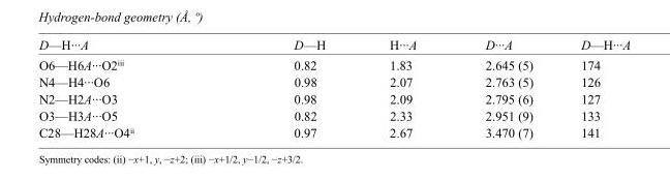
<table><tbody><tr><td>D—H···A</td><td>D—H</td><td>H···A</td><td>D···A</td><td>D—H···A</td></tr><tr><td>O6—H6A···O2<sup>iii</sup></td><td>0.82</td><td>1.83</td><td>2.645 (5)</td><td>174</td></tr><tr><td>N4—H4···O6</td><td>0.98</td><td>2.07</td><td>2.763 (5)</td><td>126</td></tr><tr><td>N2—H2A···O3</td><td>0.98</td><td>2.09</td><td>2.795 (6)</td><td>127</td></tr><tr><td>O3—H3A···O5</td><td>0.82</td><td>2.33</td><td>2.951 (9)</td><td>133</td></tr><tr><td>C28—H28A···O4<sup>ii</sup></td><td>0.97</td><td>2.67</td><td>3.470 (7)</td><td>141</td></tr></tbody></table>